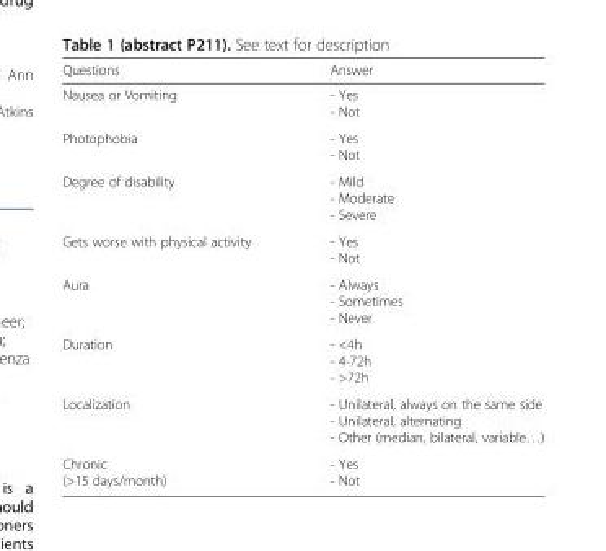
<table><thead><tr><td>Questions</td><td>Answer</td></tr></thead><tbody><tr><td>Nausea or Vomiting</td><td>- Yes - Not</td></tr><tr><td>Photophobia</td><td>- Yes - Not</td></tr><tr><td>Degree of disability</td><td>- Mild - Moderate - Severe</td></tr><tr><td>Gets worse with physical activity</td><td>- Yes - Not</td></tr><tr><td>Aura</td><td>- Always - Sometimes - Never</td></tr><tr><td>Duration</td><td>- &lt;4h - 4-72h - &gt;72h</td></tr><tr><td>Localization</td><td>- Unilateral, always on the same side - Unilateral, alternating - Other (median, bilateral, variable…)</td></tr><tr><td>Chronic (&gt;15 days/month)</td><td>- Yes - Not</td></tr></tbody></table>